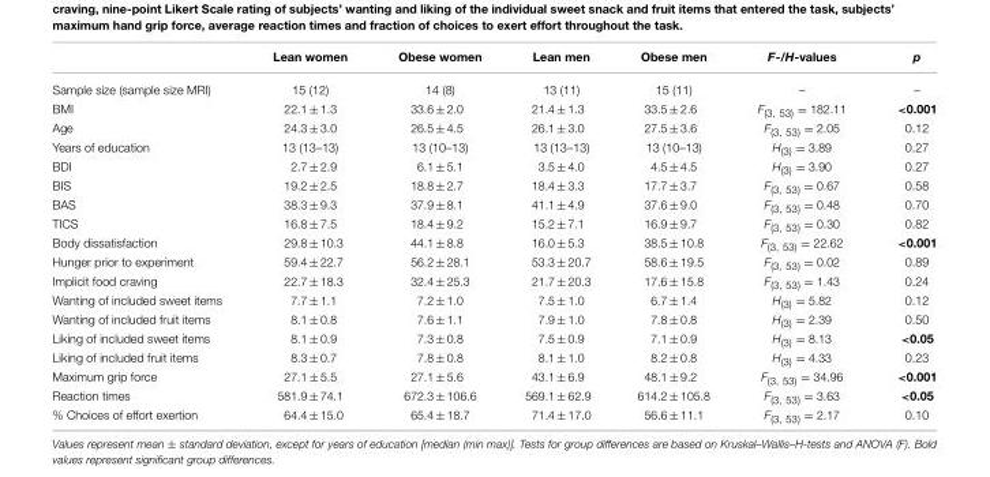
<table><thead><tr><td></td><td>Lean women</td><td>Obese women</td><td>Lean men</td><td>Obese men</td><td>F-/H-values</td><td>p</td></tr></thead><tbody><tr><td>Sample size (sample size MRI)</td><td>15 (12)</td><td>14 (8)</td><td>13 (11)</td><td>15 (11)</td><td>–</td><td>–</td></tr><tr><td>BMI</td><td>22.1 ± 1.3</td><td>33.6 ± 2.0</td><td>21.4 ± 1.3</td><td>33.5 ± 2.6</td><td>F<sub>(3, 53)</sub> = 182.11</td><td>&lt;0.001</td></tr><tr><td>Age</td><td>24.3 ± 3.0</td><td>26.5 ± 4.5</td><td>26.1 ± 3.0</td><td>27.5 ± 3.6</td><td>F<sub>(3, 53)</sub> = 2.05</td><td>0.12</td></tr><tr><td>Years of education</td><td>13 (13–13)</td><td>13 (10–13)</td><td>13 (13–13)</td><td>13 (10–13)</td><td>H<sub>(3)</sub> = 3.89</td><td>0.27</td></tr><tr><td>BDI</td><td>2.7 ± 2.9</td><td>6.1 ± 5.1</td><td>3.5 ± 4.0</td><td>4.5 ± 4.5</td><td>H<sub>(3)</sub> = 3.90</td><td>0.27</td></tr><tr><td>BIS</td><td>19.2 ± 2.5</td><td>18.8 ± 2.7</td><td>18.4 ± 3.3</td><td>17.7 ± 3.7</td><td>F<sub>(3, 53)</sub> = 0.67</td><td>0.58</td></tr><tr><td>BAS</td><td>38.3 ± 9.3</td><td>37.9 ± 8.1</td><td>41.1 ± 4.9</td><td>37.6 ± 9.0</td><td>F<sub>(3, 53)</sub> = 0.48</td><td>0.70</td></tr><tr><td>TICS</td><td>16.8 ± 7.5</td><td>18.4 ± 9.2</td><td>15.2 ± 7.1</td><td>16.9 ± 9.7</td><td>F<sub>(3, 53)</sub> = 0.30</td><td>0.82</td></tr><tr><td>Body dissatisfaction</td><td>29.8 ± 10.3</td><td>44.1 ± 8.8</td><td>16.0 ± 5.3</td><td>38.5 ± 10.8</td><td>F<sub>(3, 53)</sub> = 22.62</td><td>&lt;0.001</td></tr><tr><td>Hunger prior to experiment</td><td>59.4 ± 22.7</td><td>56.2 ± 28.1</td><td>53.3 ± 20.7</td><td>58.6 ± 19.5</td><td>F<sub>(3, 53)</sub> = 0.02</td><td>0.89</td></tr><tr><td>Implicit food craving</td><td>22.7 ± 18.3</td><td>32.4 ± 25.3</td><td>21.7 ± 20.3</td><td>17.6 ± 15.8</td><td>F<sub>(3, 53)</sub> = 1.43</td><td>0.24</td></tr><tr><td>Wanting of included sweet items</td><td>7.7 ± 1.1</td><td>7.2 ± 1.0</td><td>7.5 ± 1.0</td><td>6.7 ± 1.4</td><td>H<sub>(3)</sub> = 5.82</td><td>0.12</td></tr><tr><td>Wanting of included fruit items</td><td>8.1 ± 0.8</td><td>7.6 ± 1.1</td><td>7.9 ± 1.0</td><td>7.8 ± 0.8</td><td>H<sub>(3)</sub> = 2.39</td><td>0.50</td></tr><tr><td>Liking of included sweet items</td><td>8.1 ± 0.9</td><td>7.3 ± 0.8</td><td>7.5 ± 0.9</td><td>7.1 ± 0.9</td><td>H<sub>(3)</sub> = 8.13</td><td>&lt;0.05</td></tr><tr><td>Liking of included fruit items</td><td>8.3 ± 0.7</td><td>7.8 ± 0.8</td><td>8.1 ± 1.0</td><td>8.2 ± 0.8</td><td>H<sub>(3)</sub> = 4.33</td><td>0.23</td></tr><tr><td>Maximum grip force</td><td>27.1 ± 5.5</td><td>27.1 ± 5.6</td><td>43.1 ± 6.9</td><td>48.1 ± 9.2</td><td>F<sub>(3, 53)</sub> = 34.96</td><td>&lt;0.001</td></tr><tr><td>Reaction times</td><td>581.9 ± 74.1</td><td>672.3 ± 106.6</td><td>569.1 ± 62.9</td><td>614.2 ± 105.8</td><td>F<sub>(3, 53)</sub> = 3.63</td><td>&lt;0.05</td></tr><tr><td>% Choices of effort exertion</td><td>64.4 ± 15.0</td><td>65.4 ± 18.7</td><td>71.4 ± 17.0</td><td>56.6 ± 11.1</td><td>F<sub>(3, 53)</sub> = 2.17</td><td>0.10</td></tr></tbody></table>